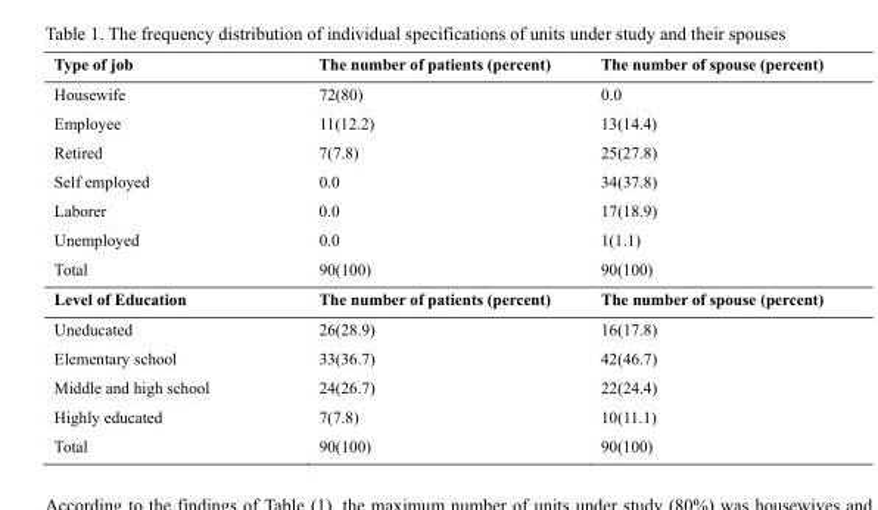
<table><thead><tr><td>Type of job</td><td>The number of patients (percent)</td><td>The number of spouse (percent)</td></tr></thead><tbody><tr><td>Housewife</td><td>72(80)</td><td>0.0</td></tr><tr><td>Employee</td><td>11(12.2)</td><td>13(14.4)</td></tr><tr><td>Retired</td><td>7(7.8)</td><td>25(27.8)</td></tr><tr><td>Self employed</td><td>0.0</td><td>34(37.8)</td></tr><tr><td>Laborer</td><td>0.0</td><td>17(18.9)</td></tr><tr><td>Unemployed</td><td>0.0</td><td>1(1.1)</td></tr><tr><td>Total</td><td>90(100)</td><td>90(100)</td></tr><tr><td>Level of Education</td><td>The number of patients (percent)</td><td>The number of spouse (percent)</td></tr><tr><td>Uneducated</td><td>26(28.9)</td><td>16(17.8)</td></tr><tr><td>Elementary school</td><td>33(36.7)</td><td>42(46.7)</td></tr><tr><td>Middle and high school</td><td>24(26.7)</td><td>22(24.4)</td></tr><tr><td>Highly educated</td><td>7(7.8)</td><td>10(11.1)</td></tr><tr><td>Total</td><td>90(100)</td><td>90(100)</td></tr></tbody></table>